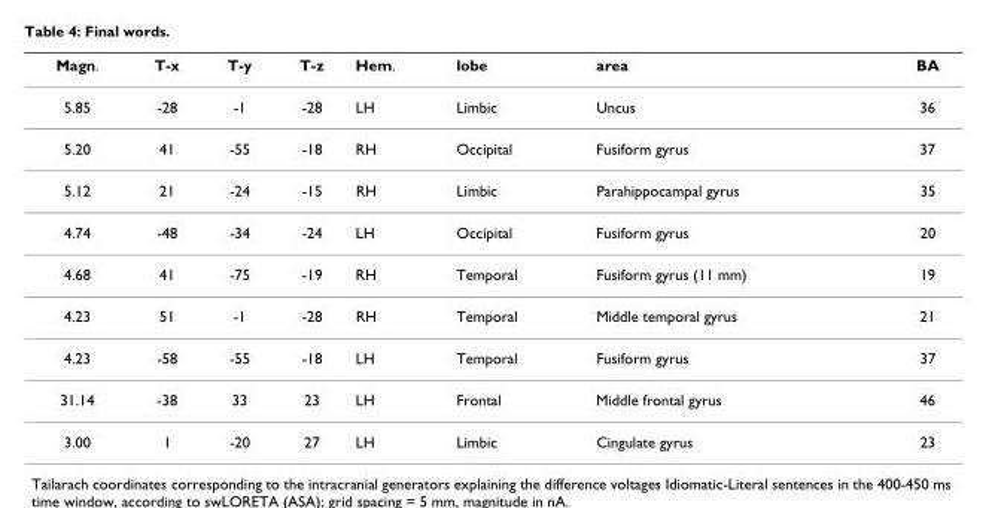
<table><thead><tr><td>Magn.</td><td>T-x</td><td>T-y</td><td>T-z</td><td>Hem.</td><td>lobe</td><td>area</td><td>BA</td></tr></thead><tbody><tr><td>5.85</td><td>-28</td><td>-1</td><td>-28</td><td>LH</td><td>Limbic</td><td>Uncus</td><td>36</td></tr><tr><td>5.20</td><td>41</td><td>-55</td><td>-18</td><td>RH</td><td>Occipital</td><td>Fusiform gyrus</td><td>37</td></tr><tr><td>5.12</td><td>21</td><td>-24</td><td>-15</td><td>RH</td><td>Limbic</td><td>Parahippocampal gyrus</td><td>35</td></tr><tr><td>4.74</td><td>-48</td><td>-34</td><td>-24</td><td>LH</td><td>Occipital</td><td>Fusiform gyrus</td><td>20</td></tr><tr><td>4.68</td><td>41</td><td>-75</td><td>-19</td><td>RH</td><td>Temporal</td><td>Fusiform gyrus (11 mm)</td><td>19</td></tr><tr><td>4.23</td><td>51</td><td>-1</td><td>-28</td><td>RH</td><td>Temporal</td><td>Middle temporal gyrus</td><td>21</td></tr><tr><td>4.23</td><td>-58</td><td>-55</td><td>-18</td><td>LH</td><td>Temporal</td><td>Fusiform gyrus</td><td>37</td></tr><tr><td>31.14</td><td>-38</td><td>33</td><td>23</td><td>LH</td><td>Frontal</td><td>Middle frontal gyrus</td><td>46</td></tr><tr><td>3.00</td><td>1</td><td>-20</td><td>27</td><td>LH</td><td>Limbic</td><td>Cingulate gyrus</td><td>23</td></tr></tbody></table>